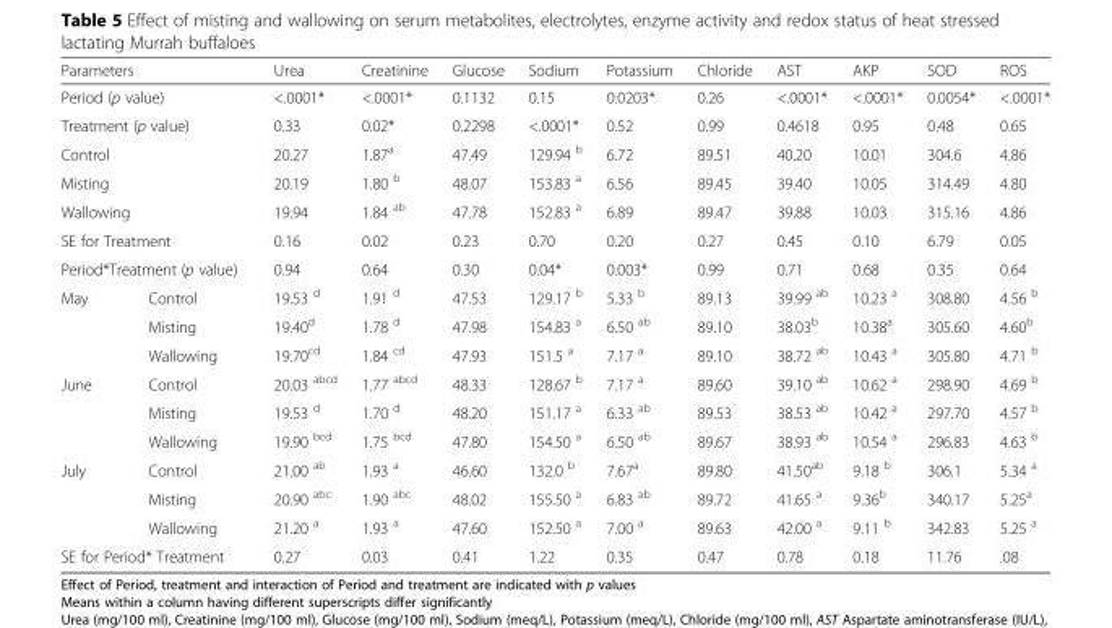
<table><thead><tr><td colspan="2">Parameters</td><td>Urea</td><td>Creatinine</td><td>Glucose</td><td>Sodium</td><td>Potassium</td><td>Chloride</td><td>AST</td><td>AKP</td><td>SOD</td><td>ROS</td></tr></thead><tbody><tr><td colspan="2">Period (p value)</td><td>&lt;.0001*</td><td>&lt;.0001*</td><td>0.1132</td><td>0.15</td><td>0.0203*</td><td>0.26</td><td>&lt;.0001*</td><td>&lt;.0001*</td><td>0.0054*</td><td>&lt;.0001*</td></tr><tr><td colspan="2">Treatment (p value)</td><td>0.33</td><td>0.02*</td><td>0.2298</td><td>&lt;.0001*</td><td>0.52</td><td>0.99</td><td>0.4618</td><td>0.95</td><td>0.48</td><td>0.65</td></tr><tr><td colspan="2">Control</td><td>20.27</td><td>1.87<sup>a</sup></td><td>47.49</td><td>129.94 <sup>b</sup></td><td>6.72</td><td>89.51</td><td>40.20</td><td>10.01</td><td>304.6</td><td>4.86</td></tr><tr><td colspan="2">Misting</td><td>20.19</td><td>1.80 <sup>b</sup></td><td>48.07</td><td>153.83 <sup>a</sup></td><td>6.56</td><td>89.45</td><td>39.40</td><td>10.05</td><td>314.49</td><td>4.80</td></tr><tr><td colspan="2">Wallowing</td><td>19.94</td><td>1.84 <sup>ab</sup></td><td>47.78</td><td>152.83 <sup>a</sup></td><td>6.89</td><td>89.47</td><td>39.88</td><td>10.03</td><td>315.16</td><td>4.86</td></tr><tr><td colspan="2">SE for Treatment</td><td>0.16</td><td>0.02</td><td>0.23</td><td>0.70</td><td>0.20</td><td>0.27</td><td>0.45</td><td>0.10</td><td>6.79</td><td>0.05</td></tr><tr><td colspan="2">Period*Treatment (p value)</td><td>0.94</td><td>0.64</td><td>0.30</td><td>0.04*</td><td>0.003*</td><td>0.99</td><td>0.71</td><td>0.68</td><td>0.35</td><td>0.64</td></tr><tr><td rowspan="3">May</td><td>Control</td><td>19.53 <sup>d</sup></td><td>1.91 <sup>d</sup></td><td>47.53</td><td>129.17 <sup>b</sup></td><td>5.33 <sup>b</sup></td><td>89.13</td><td>39.99 <sup>ab</sup></td><td>10.23 <sup>a</sup></td><td>308.80</td><td>4.56 <sup>b</sup></td></tr><tr><td>Misting</td><td>19.40<sup>d</sup></td><td>1.78 <sup>d</sup></td><td>47.98</td><td>154.83 <sup>a</sup></td><td>6.50 <sup>ab</sup></td><td>89.10</td><td>38.03<sup>b</sup></td><td>10.38<sup>a</sup></td><td>305.60</td><td>4.60<sup>b</sup></td></tr><tr><td>Wallowing</td><td>19.70<sup>cd</sup></td><td>1.84 <sup>cd</sup></td><td>47.93</td><td>151.5 <sup>a</sup></td><td>7.17 <sup>a</sup></td><td>89.10</td><td>38.72 <sup>ab</sup></td><td>10.43 <sup>a</sup></td><td>305.80</td><td>4.71 <sup>b</sup></td></tr><tr><td rowspan="3">June</td><td>Control</td><td>20.03 <sup>abcd</sup></td><td>1.77 <sup>abcd</sup></td><td>48.33</td><td>128.67 <sup>b</sup></td><td>7.17 <sup>a</sup></td><td>89.60</td><td>39.10 <sup>ab</sup></td><td>10.62 <sup>a</sup></td><td>298.90</td><td>4.69 <sup>b</sup></td></tr><tr><td>Misting</td><td>19.53 <sup>d</sup></td><td>1.70 <sup>d</sup></td><td>48.20</td><td>151.17 <sup>a</sup></td><td>6.33 <sup>ab</sup></td><td>89.53</td><td>38.53 <sup>ab</sup></td><td>10.42 <sup>a</sup></td><td>297.70</td><td>4.57 <sup>b</sup></td></tr><tr><td>Wallowing</td><td>19.90 <sup>bcd</sup></td><td>1.75 <sup>bcd</sup></td><td>47.80</td><td>154.50 <sup>a</sup></td><td>6.50 <sup>ab</sup></td><td>89.67</td><td>38.93 <sup>ab</sup></td><td>10.54 <sup>a</sup></td><td>296.83</td><td>4.63 <sup>b</sup></td></tr><tr><td rowspan="3">July</td><td>Control</td><td>21.00 <sup>ab</sup></td><td>1.93 <sup>a</sup></td><td>46.60</td><td>132.0 <sup>b</sup></td><td>7.67<sup>a</sup></td><td>89.80</td><td>41.50<sup>ab</sup></td><td>9.18 <sup>b</sup></td><td>306.1</td><td>5.34 <sup>a</sup></td></tr><tr><td>Misting</td><td>20.90 <sup>abc</sup></td><td>1.90 <sup>abc</sup></td><td>48.02</td><td>155.50 <sup>a</sup></td><td>6.83 <sup>ab</sup></td><td>89.72</td><td>41.65 <sup>a</sup></td><td>9.36<sup>b</sup></td><td>340.17</td><td>5.25<sup>a</sup></td></tr><tr><td>Wallowing</td><td>21.20 <sup>a</sup></td><td>1.93 <sup>a</sup></td><td>47.60</td><td>152.50 <sup>a</sup></td><td>7.00 <sup>a</sup></td><td>89.63</td><td>42.00 <sup>a</sup></td><td>9.11 <sup>b</sup></td><td>342.83</td><td>5.25 <sup>a</sup></td></tr><tr><td colspan="2">SE for Period* Treatment</td><td>0.27</td><td>0.03</td><td>0.41</td><td>1.22</td><td>0.35</td><td>0.47</td><td>0.78</td><td>0.18</td><td>11.76</td><td>.08</td></tr></tbody></table>